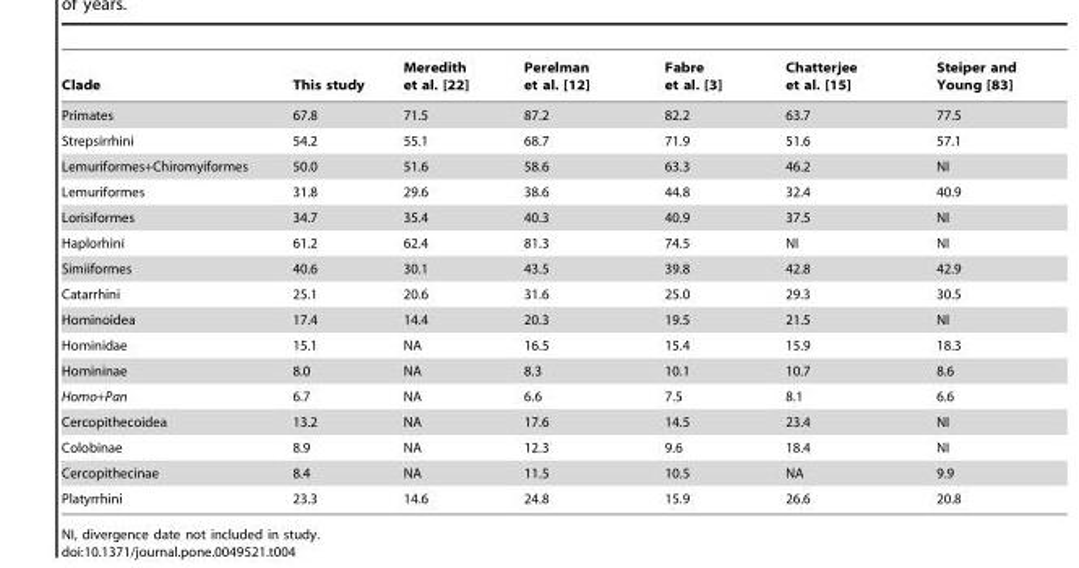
<table><thead><tr><td>Clade</td><td>This study</td><td>Meredith et al. [22]</td><td>Perelman et al. [12]</td><td>Fabre et al. [3]</td><td>Chatterjee et al. [15]</td><td>Steiper and Young [83]</td></tr></thead><tbody><tr><td>Primates</td><td>67.8</td><td>71.5</td><td>87.2</td><td>82.2</td><td>63.7</td><td>77.5</td></tr><tr><td>Strepsirrhini</td><td>54.2</td><td>55.1</td><td>68.7</td><td>71.9</td><td>51.6</td><td>57.1</td></tr><tr><td>Lemuriformes+Chiromyiformes</td><td>50.0</td><td>51.6</td><td>58.6</td><td>63.3</td><td>46.2</td><td>NI</td></tr><tr><td>Lemuriformes</td><td>31.8</td><td>29.6</td><td>38.6</td><td>44.8</td><td>32.4</td><td>40.9</td></tr><tr><td>Lorisiformes</td><td>34.7</td><td>35.4</td><td>40.3</td><td>40.9</td><td>37.5</td><td>NI</td></tr><tr><td>Haplorhini</td><td>61.2</td><td>62.4</td><td>81.3</td><td>74.5</td><td>NI</td><td>NI</td></tr><tr><td>Simiiformes</td><td>40.6</td><td>30.1</td><td>43.5</td><td>39.8</td><td>42.8</td><td>42.9</td></tr><tr><td>Catarrhini</td><td>25.1</td><td>20.6</td><td>31.6</td><td>25.0</td><td>29.3</td><td>30.5</td></tr><tr><td>Hominoidea</td><td>17.4</td><td>14.4</td><td>20.3</td><td>19.5</td><td>21.5</td><td>NI</td></tr><tr><td>Hominidae</td><td>15.1</td><td>NA</td><td>16.5</td><td>15.4</td><td>15.9</td><td>18.3</td></tr><tr><td>Homininae</td><td>8.0</td><td>NA</td><td>8.3</td><td>10.1</td><td>10.7</td><td>8.6</td></tr><tr><td>Homo+Pan</td><td>6.7</td><td>NA</td><td>6.6</td><td>7.5</td><td>8.1</td><td>6.6</td></tr><tr><td>Cercopithecoidea</td><td>13.2</td><td>NA</td><td>17.6</td><td>14.5</td><td>23.4</td><td>NI</td></tr><tr><td>Colobinae</td><td>8.9</td><td>NA</td><td>12.3</td><td>9.6</td><td>18.4</td><td>NI</td></tr><tr><td>Cercopithecinae</td><td>8.4</td><td>NA</td><td>11.5</td><td>10.5</td><td>NA</td><td>9.9</td></tr><tr><td>Platyrrhini</td><td>23.3</td><td>14.6</td><td>24.8</td><td>15.9</td><td>26.6</td><td>20.8</td></tr></tbody></table>